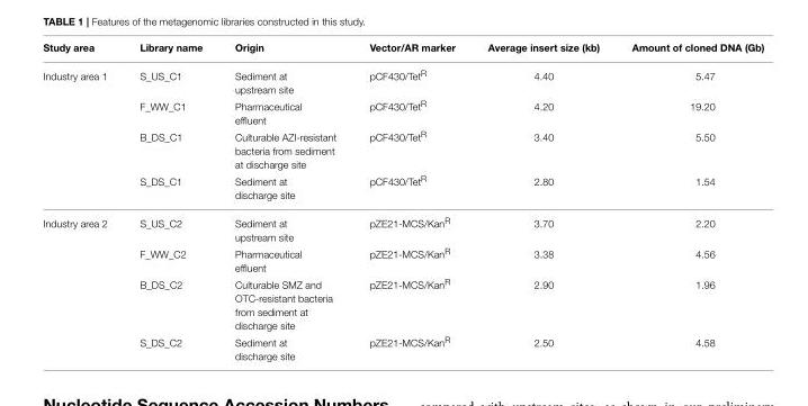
<table><thead><tr><td>Study area</td><td>Library name</td><td>Origin</td><td>Vector/AR marker</td><td>Average insert size (kb)</td><td>Amount of cloned DNA (Gb)</td></tr></thead><tbody><tr><td rowspan="4">Industry area 1</td><td>S_US_C1</td><td>Sediment at upstream site</td><td>pCF430/Tet<sup>R</sup></td><td>4.40</td><td>5.47</td></tr><tr><td>F_WW_C1</td><td>Pharmaceutical effluent</td><td>pCF430/Tet<sup>R</sup></td><td>4.20</td><td>19.20</td></tr><tr><td>B_DS_C1</td><td>Culturable AZI-resistant bacteria from sediment at discharge site</td><td>pCF430/Tet<sup>R</sup></td><td>3.40</td><td>5.50</td></tr><tr><td>S_DS_C1</td><td>Sediment at discharge site</td><td>pCF430/Tet<sup>R</sup></td><td>2.80</td><td>1.54</td></tr><tr><td rowspan="4">Industry area 2</td><td>S_US_C2</td><td>Sediment at upstream site</td><td>pZE21-MCS/Kan<sup>R</sup></td><td>3.70</td><td>2.20</td></tr><tr><td>F_WW_C2</td><td>Pharmaceutical effluent</td><td>pZE21-MCS/Kan<sup>R</sup></td><td>3.38</td><td>4.56</td></tr><tr><td>B_DS_C2</td><td>Culturable SMZ and OTC-resistant bacteria from sediment at discharge site</td><td>pZE21-MCS/Kan<sup>R</sup></td><td>2.90</td><td>1.96</td></tr><tr><td>S_DS_C2</td><td>Sediment at discharge site</td><td>pZE21-MCS/Kan<sup>R</sup></td><td>2.50</td><td>4.58</td></tr></tbody></table>